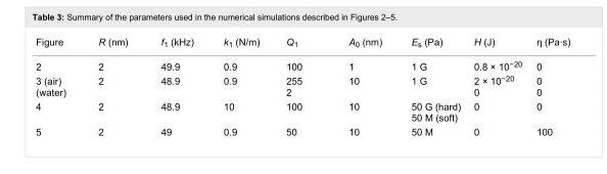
<table><tbody><tr><td>Figure</td><td>R (nm)</td><td>f<sub>1</sub> (kHz)</td><td>k<sub>1</sub> (N/m)</td><td>Q<sub>1</sub></td><td>A<sub>0</sub> (nm)</td><td>E<sub>s</sub> (Pa)</td><td>H (J)</td><td>η (Pa·s)</td></tr><tr><td>2</td><td>2</td><td>49.9</td><td>0.9</td><td>100</td><td>1</td><td>1 G</td><td>0.8 × 10<sup>−20</sup></td><td>0</td></tr><tr><td>3 (air) (water)</td><td>2</td><td>48.9</td><td>0.9</td><td>255 2</td><td>10</td><td>1 G</td><td>2 × 10<sup>−20</sup> 0</td><td>0 0</td></tr><tr><td>4</td><td>2</td><td>48.9</td><td>10</td><td>100</td><td>10</td><td>50 G (hard) 50 M (soft)</td><td>0</td><td>0</td></tr><tr><td>5</td><td>2</td><td>49</td><td>0.9</td><td>50</td><td>10</td><td>50 M</td><td>0</td><td>100</td></tr></tbody></table>